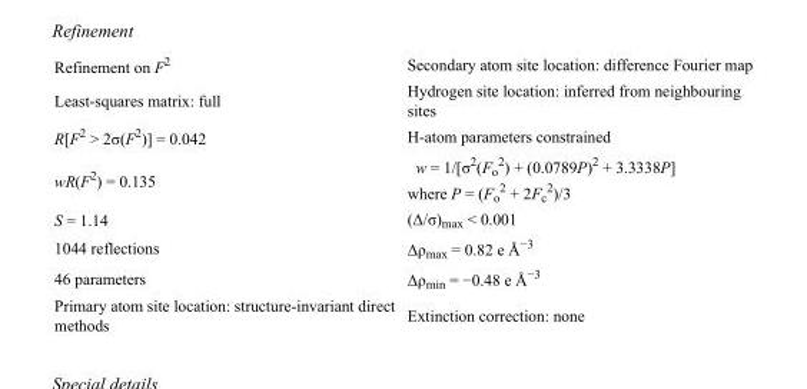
<table><tbody><tr><td>Refinement on F<sup>2</sup></td><td>Secondary atom site location: difference Fourier map</td></tr><tr><td>Least-squares matrix: full</td><td>Hydrogen site location: inferred from neighbouring sites</td></tr><tr><td>R[F<sup>2</sup> &gt; 2σ(F<sup>2</sup>)] = 0.042</td><td>H-atom parameters constrained</td></tr><tr><td>wR(F<sup>2</sup>) = 0.135</td><td>w = 1/[σ<sup>2</sup>(F<sub>o</sub> <sup>2</sup>) + (0.0789P)<sup>2</sup> + 3.3338P] where P = (F<sub>o</sub> <sup>2</sup> + 2F<sub>c</sub> <sup>2</sup>)/3</td></tr><tr><td>S = 1.14</td><td>(Δ/σ)<sub>max</sub> &lt; 0.001</td></tr><tr><td>1044 reflections</td><td>Δρ<sub>max</sub> = 0.82 e Å<sup>−3</sup></td></tr><tr><td>46 parameters</td><td>Δρ<sub>min</sub> = −0.48 e Å<sup>−3</sup></td></tr><tr><td>Primary atom site location: structure-invariant direct methods</td><td>Extinction correction: none</td></tr></tbody></table>